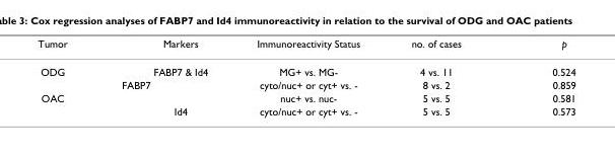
<table><thead><tr><td>Tumor</td><td>Markers</td><td>Immunoreactivity Status</td><td>no. of cases</td><td>p</td></tr></thead><tbody><tr><td rowspan="2">ODG</td><td>FABP7 &amp; Id4</td><td>MG+ vs. MG-</td><td>4 vs. 11</td><td>0.524</td></tr><tr><td>FABP7</td><td>cyto/nuc+ or cyt+ vs. -</td><td>8 vs. 2</td><td>0.859</td></tr><tr><td rowspan="2">OAC</td><td></td><td>nuc+ vs. nuc-</td><td>5 vs. 5</td><td>0.581</td></tr><tr><td>Id4</td><td>cyto/nuc+ or cyt+ vs. -</td><td>5 vs. 5</td><td>0.573</td></tr></tbody></table>